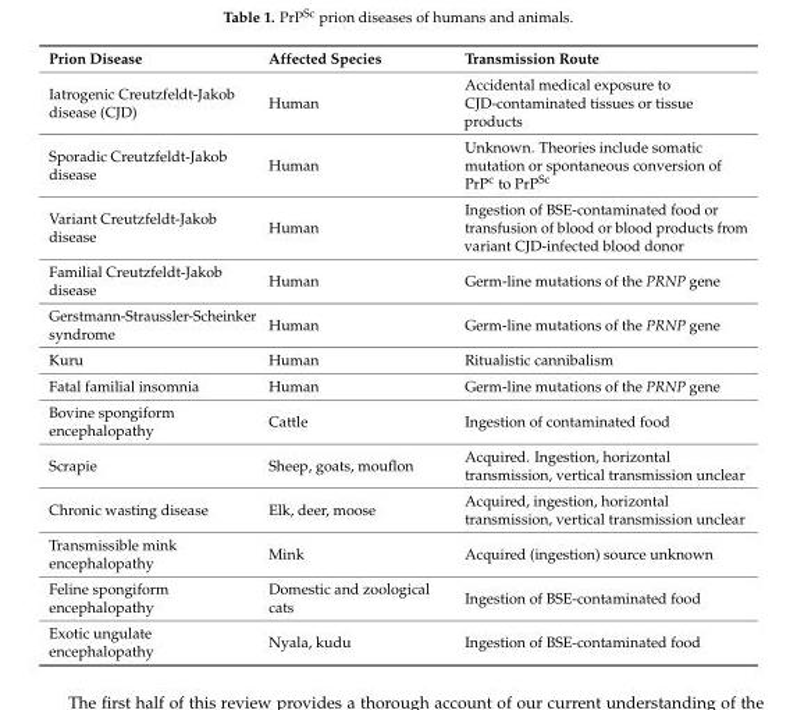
<table><thead><tr><td>Prion Disease</td><td>Affected Species</td><td>Transmission Route</td></tr></thead><tbody><tr><td>Iatrogenic Creutzfeldt-Jakob disease (CJD)</td><td>Human</td><td>Accidental medical exposure to CJD-contaminated tissues or tissue products</td></tr><tr><td>Sporadic Creutzfeldt-Jakob disease</td><td>Human</td><td>Unknown. Theories include somatic mutation or spontaneous conversion of PrP<sup>c</sup> to PrP<sup>Sc</sup></td></tr><tr><td>Variant Creutzfeldt-Jakob disease</td><td>Human</td><td>Ingestion of BSE-contaminated food or transfusion of blood or blood products from variant CJD-infected blood donor</td></tr><tr><td>Familial Creutzfeldt-Jakob disease</td><td>Human</td><td>Germ-line mutations of the PRNP gene</td></tr><tr><td>Gerstmann-Straussler-Scheinker syndrome</td><td>Human</td><td>Germ-line mutations of the PRNP gene</td></tr><tr><td>Kuru</td><td>Human</td><td>Ritualistic cannibalism</td></tr><tr><td>Fatal familial insomnia</td><td>Human</td><td>Germ-line mutations of the PRNP gene</td></tr><tr><td>Bovine spongiform encephalopathy</td><td>Cattle</td><td>Ingestion of contaminated food</td></tr><tr><td>Scrapie</td><td>Sheep, goats, mouflon</td><td>Acquired. Ingestion, horizontal transmission, vertical transmission unclear</td></tr><tr><td>Chronic wasting disease</td><td>Elk, deer, moose</td><td>Acquired, ingestion, horizontal transmission, vertical transmission unclear</td></tr><tr><td>Transmissible mink encephalopathy</td><td>Mink</td><td>Acquired (ingestion) source unknown</td></tr><tr><td>Feline spongiform encephalopathy</td><td>Domestic and zoological cats</td><td>Ingestion of BSE-contaminated food</td></tr><tr><td>Exotic ungulate encephalopathy</td><td>Nyala, kudu</td><td>Ingestion of BSE-contaminated food</td></tr></tbody></table>